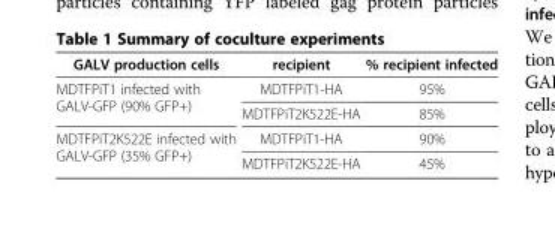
<table><thead><tr><td>GALV production cells</td><td>recipient</td><td>% recipient infected</td></tr></thead><tbody><tr><td rowspan="2">MDTFPiT1 infected with GALV-GFP (90% GFP+)</td><td>MDTFPiT1-HA</td><td>95%</td></tr><tr><td>MDTFPiT2K522E-HA</td><td>85%</td></tr><tr><td rowspan="2">MDTFPiT2K522E infected with GALV-GFP (35% GFP+)</td><td>MDTFPiT1-HA</td><td>90%</td></tr><tr><td>MDTFPiT2K522E-HA</td><td>45%</td></tr></tbody></table>